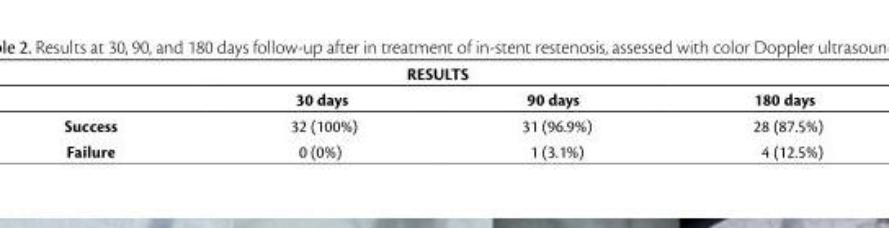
<table><thead><tr><td colspan="4">RESULTS</td></tr><tr><td></td><td>30 days</td><td>90 days</td><td>180 days</td></tr></thead><tbody><tr><td>Success</td><td>32 (100%)</td><td>31 (96.9%)</td><td>28 (87.5%)</td></tr><tr><td>Failure</td><td>0 (0%)</td><td>1 (3.1%)</td><td>4 (12.5%)</td></tr></tbody></table>